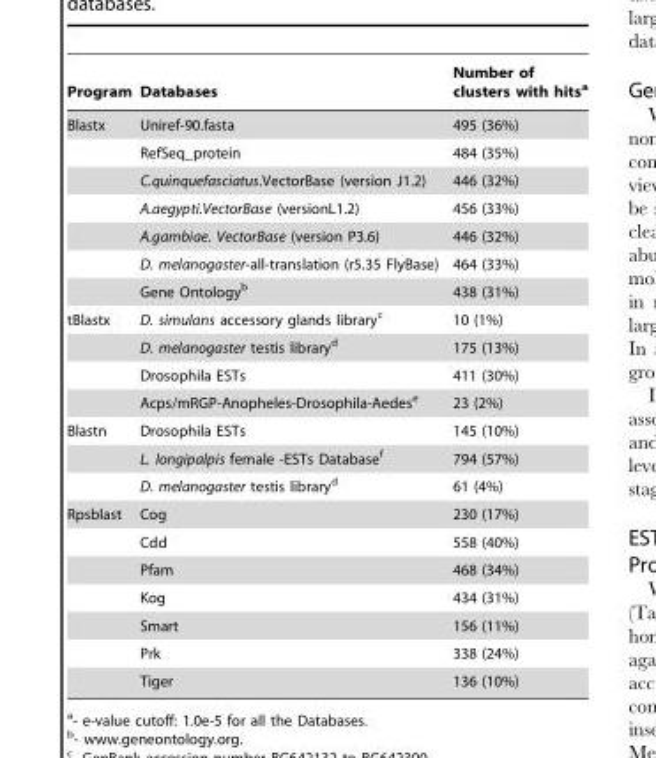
<table><thead><tr><td>Program</td><td>Databases</td><td>Number of clusters with hits<sup>a</sup></td></tr></thead><tbody><tr><td rowspan="7">Blastx</td><td>Uniref-90.fasta</td><td>495 (36%)</td></tr><tr><td>RefSeq_protein</td><td>484 (35%)</td></tr><tr><td>C.quinquefasciatus.VectorBase (version J1.2)</td><td>446 (32%)</td></tr><tr><td>A.aegypti.VectorBase (versionL1.2)</td><td>456 (33%)</td></tr><tr><td>A.gambiae. VectorBase (version P3.6)</td><td>446 (32%)</td></tr><tr><td>D. melanogaster-all-translation (r5.35 FlyBase)</td><td>464 (33%)</td></tr><tr><td>Gene Ontology<sup>b</sup></td><td>438 (31%)</td></tr><tr><td rowspan="4">tBlastx</td><td>D. simulans accessory glands library<sup>c</sup></td><td>10 (1%)</td></tr><tr><td>D. melanogaster testis library<sup>d</sup></td><td>175 (13%)</td></tr><tr><td>Drosophila ESTs</td><td>411 (30%)</td></tr><tr><td>Acps/mRGP-Anopheles-Drosophila-Aedes<sup>e</sup></td><td>23 (2%)</td></tr><tr><td rowspan="3">Blastn</td><td>Drosophila ESTs</td><td>145 (10%)</td></tr><tr><td>L. longipalpis female -ESTs Database<sup>f</sup></td><td>794 (57%)</td></tr><tr><td>D. melanogaster testis library<sup>d</sup></td><td>61 (4%)</td></tr><tr><td rowspan="7">Rpsblast</td><td>Cog</td><td>230 (17%)</td></tr><tr><td>Cdd</td><td>558 (40%)</td></tr><tr><td>Pfam</td><td>468 (34%)</td></tr><tr><td>Kog</td><td>434 (31%)</td></tr><tr><td>Smart</td><td>156 (11%)</td></tr><tr><td>Prk</td><td>338 (24%)</td></tr><tr><td>Tiger</td><td>136 (10%)</td></tr></tbody></table>